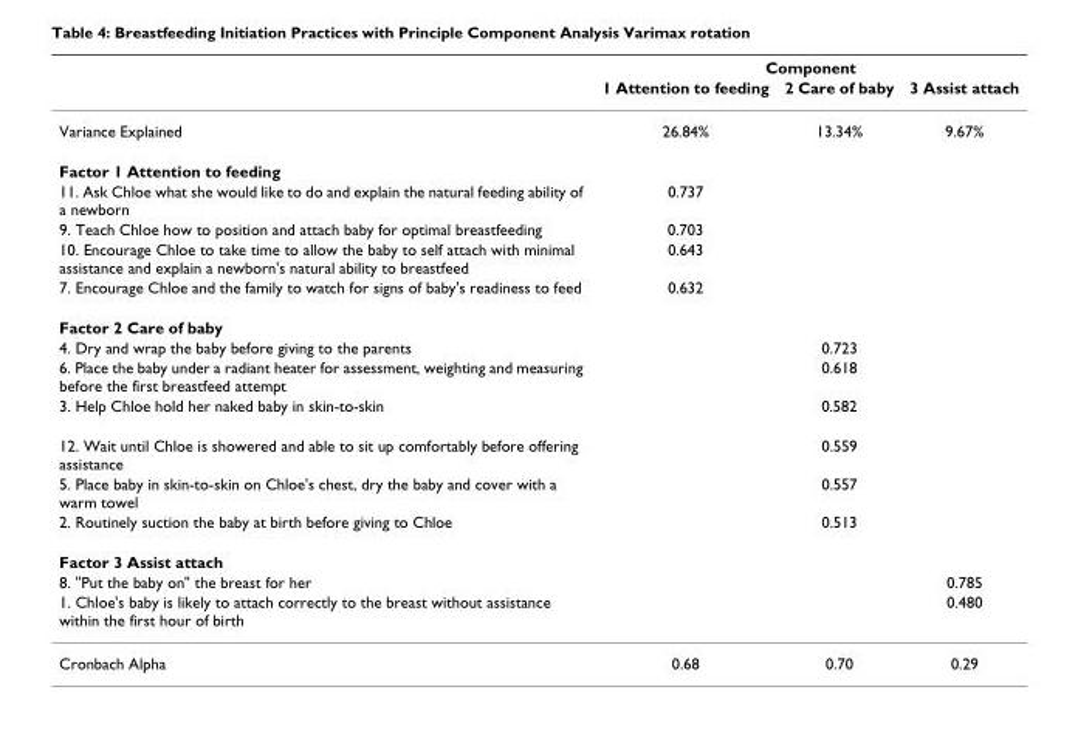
<table><thead><tr><td rowspan="2"></td><td colspan="3">Component</td></tr><tr><td>1 Attention to feeding</td><td>2 Care of baby</td><td>3 Assist attach</td></tr></thead><tbody><tr><td>Variance Explained</td><td>26.84%</td><td>13.34%</td><td>9.67%</td></tr><tr><td colspan="4">Factor 1 Attention to feeding</td></tr><tr><td>11. Ask Chloe what she would like to do and explain the natural feeding ability of a newborn</td><td>0.737</td><td></td><td></td></tr><tr><td>9. Teach Chloe how to position and attach baby for optimal breastfeeding</td><td>0.703</td><td></td><td></td></tr><tr><td>10. Encourage Chloe to take time to allow the baby to self attach with minimal assistance and explain a newborn&#x27;s natural ability to breastfeed</td><td>0.643</td><td></td><td></td></tr><tr><td>7. Encourage Chloe and the family to watch for signs of baby&#x27;s readiness to feed</td><td>0.632</td><td></td><td></td></tr><tr><td colspan="4">Factor 2 Care of baby</td></tr><tr><td>4. Dry and wrap the baby before giving to the parents</td><td></td><td>0.723</td><td></td></tr><tr><td>6. Place the baby under a radiant heater for assessment, weighting and measuring before the first breastfeed attempt</td><td></td><td>0.618</td><td></td></tr><tr><td>3. Help Chloe hold her naked baby in skin-to-skin</td><td></td><td>0.582</td><td></td></tr><tr><td>12. Wait until Chloe is showered and able to sit up comfortably before offering assistance</td><td></td><td>0.559</td><td></td></tr><tr><td>5. Place baby in skin-to-skin on Chloe&#x27;s chest, dry the baby and cover with a warm towel</td><td></td><td>0.557</td><td></td></tr><tr><td>2. Routinely suction the baby at birth before giving to Chloe</td><td></td><td>0.513</td><td></td></tr><tr><td colspan="4">Factor 3 Assist attach</td></tr><tr><td>8. &quot;Put the baby on&quot; the breast for her</td><td></td><td></td><td>0.785</td></tr><tr><td>1. Chloe&#x27;s baby is likely to attach correctly to the breast without assistance within the first hour of birth</td><td></td><td></td><td>0.480</td></tr><tr><td>Cronbach Alpha</td><td>0.68</td><td>0.70</td><td>0.29</td></tr></tbody></table>